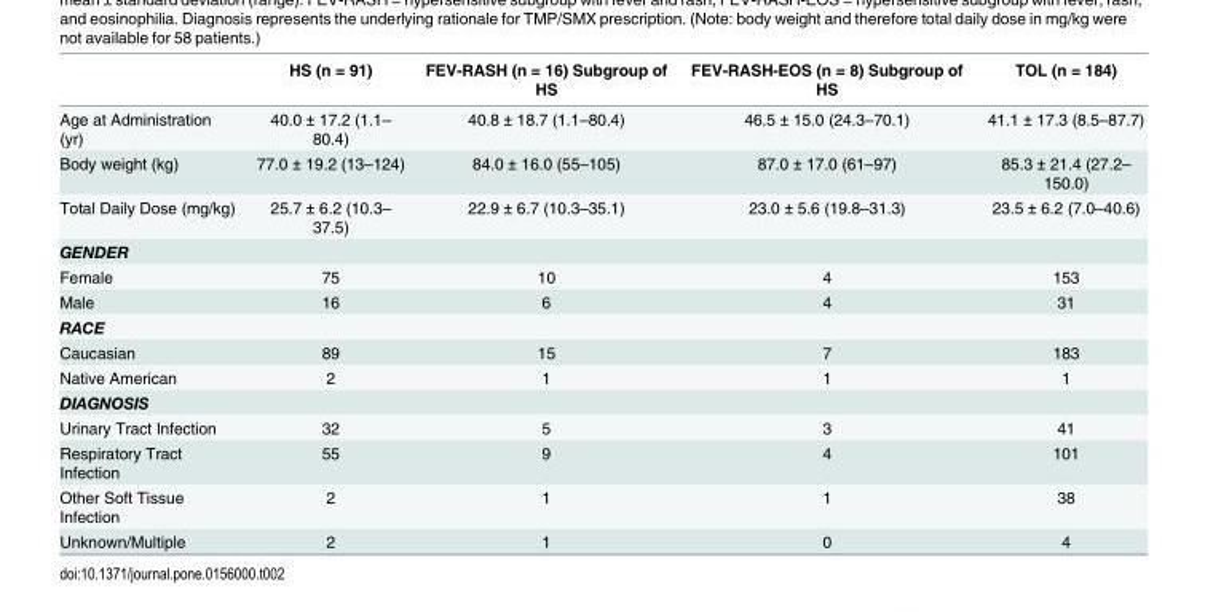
<table><thead><tr><td></td><td>HS (n = 91)</td><td>FEV-RASH (n = 16) Subgroup of HS</td><td>FEV-RASH-EOS (n = 8) Subgroup of HS</td><td>TOL (n = 184)</td></tr></thead><tbody><tr><td>Age at Administration (yr)</td><td>40.0 ± 17.2 (1.1– 80.4)</td><td>40.8 ± 18.7 (1.1–80.4)</td><td>46.5 ± 15.0 (24.3–70.1)</td><td>41.1 ± 17.3 (8.5–87.7)</td></tr><tr><td>Body weight (kg)</td><td>77.0 ± 19.2 (13–124)</td><td>84.0 ± 16.0 (55–105)</td><td>87.0 ± 17.0 (61–97)</td><td>85.3 ± 21.4 (27.2– 150.0)</td></tr><tr><td>Total Daily Dose (mg/kg)</td><td>25.7 ± 6.2 (10.3– 37.5)</td><td>22.9 ± 6.7 (10.3–35.1)</td><td>23.0 ± 5.6 (19.8–31.3)</td><td>23.5 ± 6.2 (7.0–40.6)</td></tr><tr><td colspan="5">GENDER</td></tr><tr><td>Female</td><td>75</td><td>10</td><td>4</td><td>153</td></tr><tr><td>Male</td><td>16</td><td>6</td><td>4</td><td>31</td></tr><tr><td colspan="5">RACE</td></tr><tr><td>Caucasian</td><td>89</td><td>15</td><td>7</td><td>183</td></tr><tr><td>Native American</td><td>2</td><td>1</td><td>1</td><td>1</td></tr><tr><td colspan="5">DIAGNOSIS</td></tr><tr><td>Urinary Tract Infection</td><td>32</td><td>5</td><td>3</td><td>41</td></tr><tr><td>Respiratory Tract Infection</td><td>55</td><td>9</td><td>4</td><td>101</td></tr><tr><td>Other Soft Tissue Infection</td><td>2</td><td>1</td><td>1</td><td>38</td></tr><tr><td>Unknown/Multiple</td><td>2</td><td>1</td><td>0</td><td>4</td></tr></tbody></table>